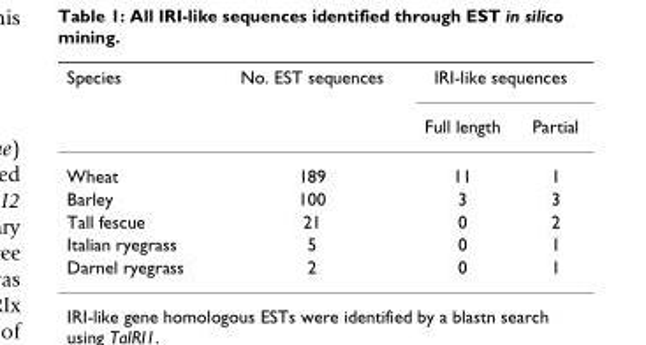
<table><thead><tr><td rowspan="2">Species</td><td rowspan="2">No. EST sequences</td><td colspan="2">IRI-like sequences</td></tr><tr><td>Full length</td><td>Partial</td></tr></thead><tbody><tr><td>Wheat</td><td>189</td><td>11</td><td>1</td></tr><tr><td>Barley</td><td>100</td><td>3</td><td>3</td></tr><tr><td>Tall fescue</td><td>21</td><td>0</td><td>2</td></tr><tr><td>Italian ryegrass</td><td>5</td><td>0</td><td>1</td></tr><tr><td>Darnel ryegrass</td><td>2</td><td>0</td><td>1</td></tr></tbody></table>